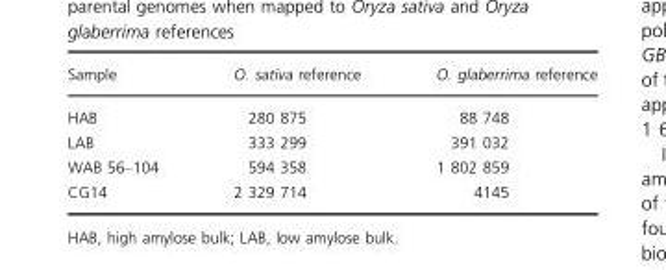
<table><thead><tr><td>Sample</td><td>O. sativa reference</td><td>O. glaberrima reference</td></tr></thead><tbody><tr><td>HAB</td><td>280 875</td><td>88 748</td></tr><tr><td>LAB</td><td>333 299</td><td>391 032</td></tr><tr><td>WAB 56–104</td><td>594 358</td><td>1 802 859</td></tr><tr><td>CG14</td><td>2 329 714</td><td>4145</td></tr></tbody></table>